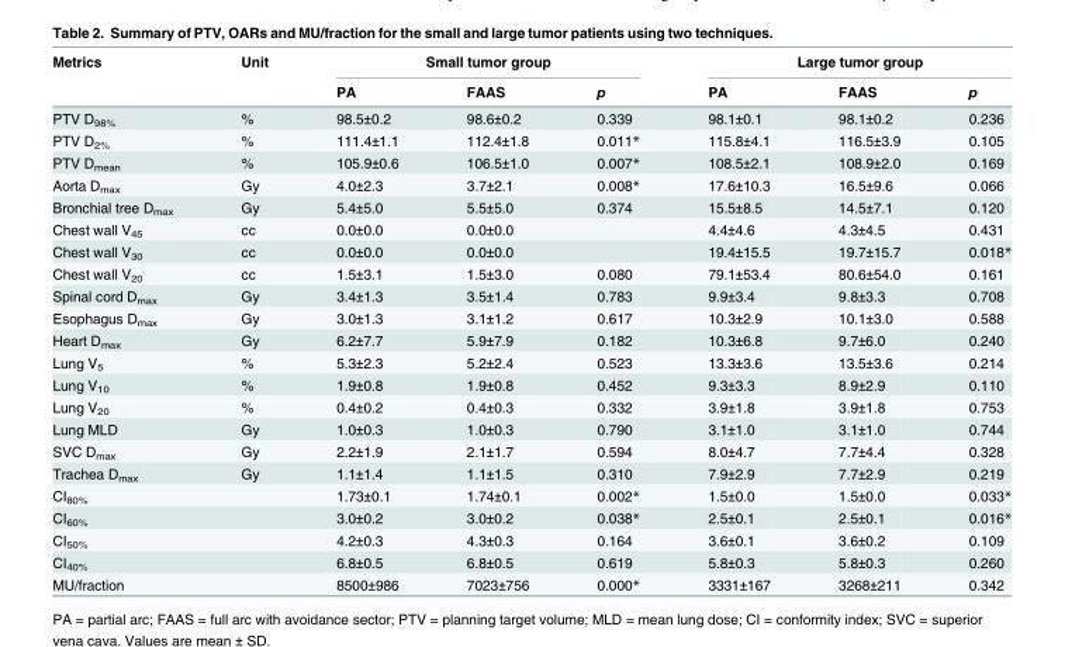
<table><thead><tr><td rowspan="2">Metrics</td><td rowspan="2">Unit</td><td colspan="3">Small tumor group</td><td colspan="3">Large tumor group</td></tr><tr><td>PA</td><td>FAAS</td><td>p</td><td>PA</td><td>FAAS</td><td>p</td></tr></thead><tbody><tr><td>PTV D<sub>98%</sub></td><td>%</td><td>98.5±0.2</td><td>98.6±0.2</td><td>0.339</td><td>98.1±0.1</td><td>98.1±0.2</td><td>0.236</td></tr><tr><td>PTV D<sub>2%</sub></td><td>%</td><td>111.4±1.1</td><td>112.4±1.8</td><td>0.011*</td><td>115.8±4.1</td><td>116.5±3.9</td><td>0.105</td></tr><tr><td>PTV D<sub>mean</sub></td><td>%</td><td>105.9±0.6</td><td>106.5±1.0</td><td>0.007*</td><td>108.5±2.1</td><td>108.9±2.0</td><td>0.169</td></tr><tr><td>Aorta D<sub>max</sub></td><td>Gy</td><td>4.0±2.3</td><td>3.7±2.1</td><td>0.008*</td><td>17.6±10.3</td><td>16.5±9.6</td><td>0.066</td></tr><tr><td>Bronchial tree D<sub>max</sub></td><td>Gy</td><td>5.4±5.0</td><td>5.5±5.0</td><td>0.374</td><td>15.5±8.5</td><td>14.5±7.1</td><td>0.120</td></tr><tr><td>Chest wall V<sub>45</sub></td><td>cc</td><td>0.0±0.0</td><td>0.0±0.0</td><td></td><td>4.4±4.6</td><td>4.3±4.5</td><td>0.431</td></tr><tr><td>Chest wall V<sub>30</sub></td><td>cc</td><td>0.0±0.0</td><td>0.0±0.0</td><td></td><td>19.4±15.5</td><td>19.7±15.7</td><td>0.018*</td></tr><tr><td>Chest wall V<sub>20</sub></td><td>cc</td><td>1.5±3.1</td><td>1.5±3.0</td><td>0.080</td><td>79.1±53.4</td><td>80.6±54.0</td><td>0.161</td></tr><tr><td>Spinal cord D<sub>max</sub></td><td>Gy</td><td>3.4±1.3</td><td>3.5±1.4</td><td>0.783</td><td>9.9±3.4</td><td>9.8±3.3</td><td>0.708</td></tr><tr><td>Esophagus D<sub>max</sub></td><td>Gy</td><td>3.0±1.3</td><td>3.1±1.2</td><td>0.617</td><td>10.3±2.9</td><td>10.1±3.0</td><td>0.588</td></tr><tr><td>Heart D<sub>max</sub></td><td>Gy</td><td>6.2±7.7</td><td>5.9±7.9</td><td>0.182</td><td>10.3±6.8</td><td>9.7±6.0</td><td>0.240</td></tr><tr><td>Lung V<sub>5</sub></td><td>%</td><td>5.3±2.3</td><td>5.2±2.4</td><td>0.523</td><td>13.3±3.6</td><td>13.5±3.6</td><td>0.214</td></tr><tr><td>Lung V<sub>10</sub></td><td>%</td><td>1.9±0.8</td><td>1.9±0.8</td><td>0.452</td><td>9.3±3.3</td><td>8.9±2.9</td><td>0.110</td></tr><tr><td>Lung V<sub>20</sub></td><td>%</td><td>0.4±0.2</td><td>0.4±0.3</td><td>0.332</td><td>3.9±1.8</td><td>3.9±1.8</td><td>0.753</td></tr><tr><td>Lung MLD</td><td>Gy</td><td>1.0±0.3</td><td>1.0±0.3</td><td>0.790</td><td>3.1±1.0</td><td>3.1±1.0</td><td>0.744</td></tr><tr><td>SVC D<sub>max</sub></td><td>Gy</td><td>2.2±1.9</td><td>2.1±1.7</td><td>0.594</td><td>8.0±4.7</td><td>7.7±4.4</td><td>0.328</td></tr><tr><td>Trachea D<sub>max</sub></td><td>Gy</td><td>1.1±1.4</td><td>1.1±1.5</td><td>0.310</td><td>7.9±2.9</td><td>7.7±2.9</td><td>0.219</td></tr><tr><td>CI<sub>80%</sub></td><td></td><td>1.73±0.1</td><td>1.74±0.1</td><td>0.002*</td><td>1.5±0.0</td><td>1.5±0.0</td><td>0.033*</td></tr><tr><td>CI<sub>60%</sub></td><td></td><td>3.0±0.2</td><td>3.0±0.2</td><td>0.038*</td><td>2.5±0.1</td><td>2.5±0.1</td><td>0.016*</td></tr><tr><td>CI<sub>50%</sub></td><td></td><td>4.2±0.3</td><td>4.3±0.3</td><td>0.164</td><td>3.6±0.1</td><td>3.6±0.2</td><td>0.109</td></tr><tr><td>CI<sub>40%</sub></td><td></td><td>6.8±0.5</td><td>6.8±0.5</td><td>0.619</td><td>5.8±0.3</td><td>5.8±0.3</td><td>0.260</td></tr><tr><td>MU/fraction</td><td></td><td>8500±986</td><td>7023±756</td><td>0.000*</td><td>3331±167</td><td>3268±211</td><td>0.342</td></tr></tbody></table>